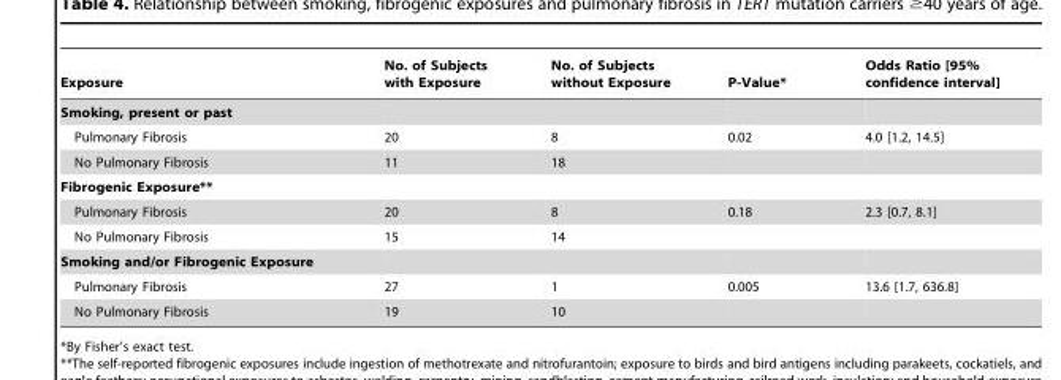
<table><thead><tr><td>Exposure</td><td>No. of Subjects with Exposure</td><td>No. of Subjects without Exposure</td><td>P-Value*</td><td>Odds Ratio [95% confidence interval]</td></tr></thead><tbody><tr><td colspan="5">Smoking, present or past</td></tr><tr><td>Pulmonary Fibrosis</td><td>20</td><td>8</td><td>0.02</td><td>4.0 [1.2, 14.5]</td></tr><tr><td>No Pulmonary Fibrosis</td><td>11</td><td>18</td><td></td><td></td></tr><tr><td colspan="5">Fibrogenic Exposure**</td></tr><tr><td>Pulmonary Fibrosis</td><td>20</td><td>8</td><td>0.18</td><td>2.3 [0.7, 8.1]</td></tr><tr><td>No Pulmonary Fibrosis</td><td>15</td><td>14</td><td></td><td></td></tr><tr><td colspan="5">Smoking and/or Fibrogenic Exposure</td></tr><tr><td>Pulmonary Fibrosis</td><td>27</td><td>1</td><td>0.005</td><td>13.6 [1.7, 636.8]</td></tr><tr><td>No Pulmonary Fibrosis</td><td>19</td><td>10</td><td></td><td></td></tr></tbody></table>